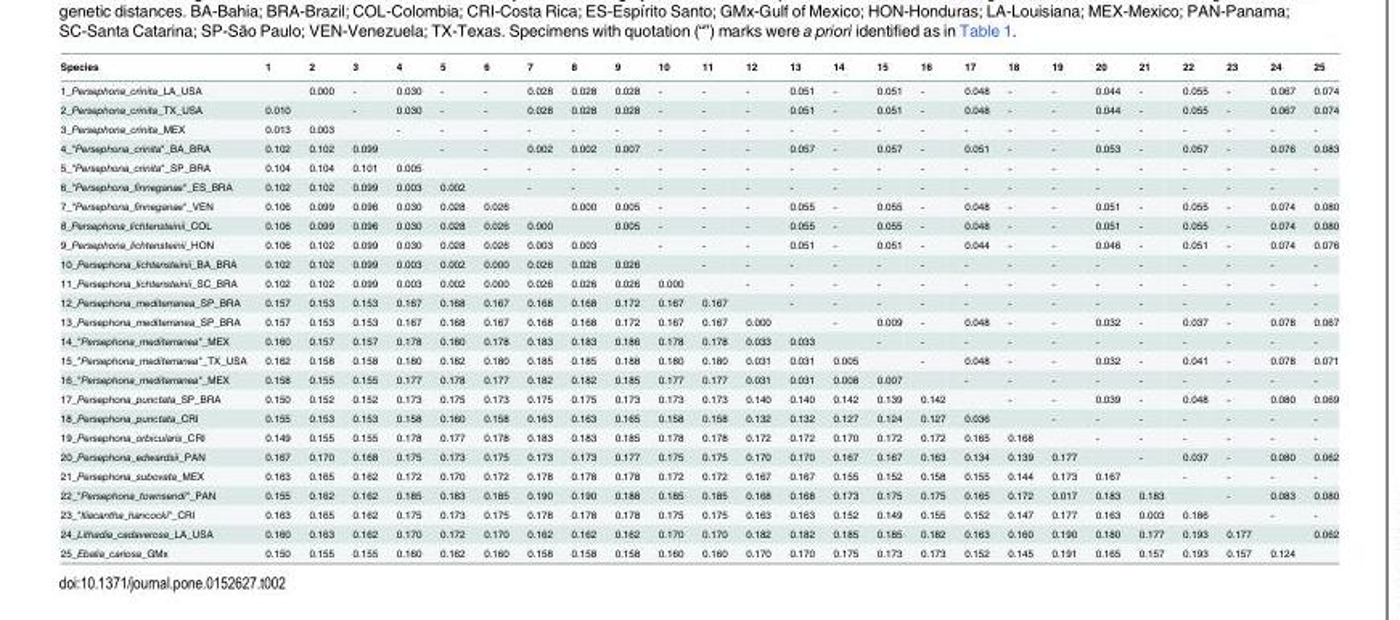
<table><thead><tr><td>Species</td><td>1</td><td>2</td><td>3</td><td>4</td><td>5</td><td>6</td><td>7</td><td>8</td><td>9</td><td>10</td><td>11</td><td>12</td><td>13</td><td>14</td><td>15</td><td>16</td><td>17</td><td>18</td><td>19</td><td>20</td><td>21</td><td>22</td><td>23</td><td>24</td><td>25</td></tr></thead><tbody><tr><td>1_Persephona_crinita_LA_USA</td><td></td><td>0.000</td><td>-</td><td>0.030</td><td>-</td><td>-</td><td>0.028</td><td>0.028</td><td>0.028</td><td>-</td><td>-</td><td>-</td><td>0.051</td><td>-</td><td>0.051</td><td>-</td><td>0.048</td><td>-</td><td>-</td><td>0.044</td><td>-</td><td>0.055</td><td>-</td><td>0.067</td><td>0.074</td></tr><tr><td>2_Persephona_crinita_TX_USA</td><td>0.010</td><td></td><td>-</td><td>0.030</td><td>-</td><td>-</td><td>0.028</td><td>0.028</td><td>0.028</td><td>-</td><td>-</td><td>-</td><td>0.051</td><td>-</td><td>0.051</td><td>-</td><td>0.048</td><td>-</td><td>-</td><td>0.044</td><td>-</td><td>0.055</td><td>-</td><td>0.067</td><td>0.074</td></tr><tr><td>3_Persephona_crinita_MEX</td><td>0.013</td><td>0.003</td><td></td><td>-</td><td>-</td><td>-</td><td>-</td><td>-</td><td>-</td><td>-</td><td>-</td><td>-</td><td>-</td><td>-</td><td>-</td><td>-</td><td>-</td><td>-</td><td>-</td><td>-</td><td>-</td><td>-</td><td>-</td><td>-</td><td>-</td></tr><tr><td>4_&quot;Persephona_crinita&quot;_BA_BRA</td><td>0.102</td><td>0.102</td><td>0.099</td><td></td><td>-</td><td>-</td><td>0.002</td><td>0.002</td><td>0.007</td><td>-</td><td>-</td><td>-</td><td>0.057</td><td>-</td><td>0.057</td><td>-</td><td>0.051</td><td>-</td><td>-</td><td>0.053</td><td>-</td><td>0.057</td><td>-</td><td>0.076</td><td>0.083</td></tr><tr><td>5_&quot;Persephona_crinita&quot;_SP_BRA</td><td>0.104</td><td>0.104</td><td>0.101</td><td>0.005</td><td></td><td>-</td><td>-</td><td>-</td><td>-</td><td>-</td><td>-</td><td>-</td><td>-</td><td>-</td><td>-</td><td>-</td><td>-</td><td>-</td><td>-</td><td>-</td><td>-</td><td>-</td><td>-</td><td>-</td><td>-</td></tr><tr><td>6_&quot;Persephona_finneganae&quot;_ES_BRA</td><td>0.102</td><td>0.102</td><td>0.099</td><td>0.003</td><td>0.002</td><td></td><td>-</td><td>-</td><td>-</td><td>-</td><td>-</td><td>-</td><td>-</td><td>-</td><td>-</td><td>-</td><td>-</td><td>-</td><td>-</td><td>-</td><td>-</td><td>-</td><td>-</td><td>-</td><td>-</td></tr><tr><td>7_&quot;Persephona_finneganae&quot;_VEN</td><td>0.106</td><td>0.099</td><td>0.096</td><td>0.030</td><td>0.028</td><td>0.026</td><td></td><td>0.000</td><td>0.005</td><td>-</td><td>-</td><td>-</td><td>0.055</td><td>-</td><td>0.055</td><td>-</td><td>0.048</td><td>-</td><td>-</td><td>0.051</td><td>-</td><td>0.055</td><td>-</td><td>0.074</td><td>0.080</td></tr><tr><td>8_Persephona_lichtensteinii_COL</td><td>0.106</td><td>0.099</td><td>0.096</td><td>0.030</td><td>0.028</td><td>0.026</td><td>0.000</td><td></td><td>0.005</td><td>-</td><td>-</td><td>-</td><td>0.055</td><td>-</td><td>0.055</td><td>-</td><td>0.048</td><td>-</td><td>-</td><td>0.051</td><td>-</td><td>0.055</td><td>-</td><td>0.074</td><td>0.080</td></tr><tr><td>9_Persephona_lichtensteinii_HON</td><td>0.106</td><td>0.102</td><td>0.099</td><td>0.030</td><td>0.028</td><td>0.026</td><td>0.003</td><td>0.003</td><td></td><td>-</td><td>-</td><td>-</td><td>0.051</td><td>-</td><td>0.051</td><td>-</td><td>0.044</td><td>-</td><td>-</td><td>0.046</td><td>-</td><td>0.051</td><td>-</td><td>0.074</td><td>0.076</td></tr><tr><td>10_Persephona_lichtensteinii_BA_BRA</td><td>0.102</td><td>0.102</td><td>0.099</td><td>0.003</td><td>0.002</td><td>0.000</td><td>0.026</td><td>0.026</td><td>0.026</td><td></td><td>-</td><td>-</td><td>-</td><td>-</td><td>-</td><td>-</td><td>-</td><td>-</td><td>-</td><td>-</td><td>-</td><td>-</td><td>-</td><td>-</td><td>-</td></tr><tr><td>11_Persephona_lichtensteinii_SC_BRA</td><td>0.102</td><td>0.102</td><td>0.099</td><td>0.003</td><td>0.002</td><td>0.000</td><td>0.026</td><td>0.026</td><td>0.026</td><td>0.000</td><td></td><td>-</td><td>-</td><td>-</td><td>-</td><td>-</td><td>-</td><td>-</td><td>-</td><td>-</td><td>-</td><td>-</td><td>-</td><td>-</td><td>-</td></tr><tr><td>12_Persephona_mediterranea_SP_BRA</td><td>0.157</td><td>0.153</td><td>0.153</td><td>0.167</td><td>0.168</td><td>0.167</td><td>0.168</td><td>0.168</td><td>0.172</td><td>0.167</td><td>0.167</td><td></td><td>-</td><td>-</td><td>-</td><td>-</td><td>-</td><td>-</td><td>-</td><td>-</td><td>-</td><td>-</td><td>-</td><td>-</td><td>-</td></tr><tr><td>13_Persephona_mediterranea_SP_BRA</td><td>0.157</td><td>0.153</td><td>0.153</td><td>0.167</td><td>0.168</td><td>0.167</td><td>0.168</td><td>0.168</td><td>0.172</td><td>0.167</td><td>0.167</td><td>0.000</td><td></td><td>-</td><td>0.009</td><td>-</td><td>0.048</td><td>-</td><td>-</td><td>0.032</td><td>-</td><td>0.037</td><td>-</td><td>0.078</td><td>0.067</td></tr><tr><td>14_&quot;Persephona_mediterranea&quot;_MEX</td><td>0.160</td><td>0.157</td><td>0.157</td><td>0.178</td><td>0.180</td><td>0.178</td><td>0.183</td><td>0.183</td><td>0.186</td><td>0.178</td><td>0.178</td><td>0.033</td><td>0.033</td><td></td><td>-</td><td>-</td><td>-</td><td>-</td><td>-</td><td>-</td><td>-</td><td>-</td><td>-</td><td>-</td><td>-</td></tr><tr><td>15_&quot;Persephona_mediterranea&quot;_TX_USA</td><td>0.162</td><td>0.158</td><td>0.158</td><td>0.180</td><td>0.182</td><td>0.180</td><td>0.185</td><td>0.185</td><td>0.188</td><td>0.180</td><td>0.180</td><td>0.031</td><td>0.031</td><td>0.005</td><td></td><td>-</td><td>0.048</td><td>-</td><td>-</td><td>0.032</td><td>-</td><td>0.041</td><td>-</td><td>0.078</td><td>0.071</td></tr><tr><td>16_&quot;Persephona_mediterranea&quot;_MEX</td><td>0.158</td><td>0.155</td><td>0.155</td><td>0.177</td><td>0.178</td><td>0.177</td><td>0.182</td><td>0.182</td><td>0.185</td><td>0.177</td><td>0.177</td><td>0.031</td><td>0.031</td><td>0.008</td><td>0.007</td><td></td><td>-</td><td>-</td><td>-</td><td>-</td><td>-</td><td>-</td><td>-</td><td>-</td><td>-</td></tr><tr><td>17_Persephona_punctata_SP_BRA</td><td>0.150</td><td>0.152</td><td>0.152</td><td>0.173</td><td>0.175</td><td>0.173</td><td>0.175</td><td>0.175</td><td>0.173</td><td>0.173</td><td>0.173</td><td>0.140</td><td>0.140</td><td>0.142</td><td>0.139</td><td>0.142</td><td></td><td>-</td><td>-</td><td>0.039</td><td>-</td><td>0.048</td><td>-</td><td>0.080</td><td>0.069</td></tr><tr><td>18_Persephona_punctata_CRI</td><td>0.155</td><td>0.153</td><td>0.153</td><td>0.158</td><td>0.160</td><td>0.158</td><td>0.163</td><td>0.163</td><td>0.165</td><td>0.158</td><td>0.158</td><td>0.132</td><td>0.132</td><td>0.127</td><td>0.124</td><td>0.127</td><td>0.036</td><td></td><td>-</td><td>-</td><td>-</td><td>-</td><td>-</td><td>-</td><td>-</td></tr><tr><td>19_Persephona_orbicularis_CRI</td><td>0.149</td><td>0.155</td><td>0.155</td><td>0.178</td><td>0.177</td><td>0.178</td><td>0.183</td><td>0.183</td><td>0.185</td><td>0.178</td><td>0.178</td><td>0.172</td><td>0.172</td><td>0.170</td><td>0.172</td><td>0.172</td><td>0.165</td><td>0.168</td><td></td><td>-</td><td>-</td><td>-</td><td>-</td><td>-</td><td>-</td></tr><tr><td>20_Persephona_edwardsii_PAN</td><td>0.167</td><td>0.170</td><td>0.168</td><td>0.175</td><td>0.173</td><td>0.175</td><td>0.173</td><td>0.173</td><td>0.177</td><td>0.175</td><td>0.175</td><td>0.170</td><td>0.170</td><td>0.167</td><td>0.167</td><td>0.163</td><td>0.134</td><td>0.139</td><td>0.177</td><td></td><td>-</td><td>0.037</td><td>-</td><td>0.080</td><td>0.062</td></tr><tr><td>21_Persephona_subovata_MEX</td><td>0.163</td><td>0.165</td><td>0.162</td><td>0.172</td><td>0.170</td><td>0.172</td><td>0.178</td><td>0.178</td><td>0.178</td><td>0.172</td><td>0.172</td><td>0.167</td><td>0.167</td><td>0.155</td><td>0.152</td><td>0.158</td><td>0.155</td><td>0.144</td><td>0.173</td><td>0.167</td><td></td><td>-</td><td>-</td><td>-</td><td>-</td></tr><tr><td>22_&quot;Persephona_townsendi&quot;_PAN</td><td>0.155</td><td>0.162</td><td>0.162</td><td>0.185</td><td>0.183</td><td>0.185</td><td>0.190</td><td>0.190</td><td>0.188</td><td>0.185</td><td>0.185</td><td>0.168</td><td>0.168</td><td>0.173</td><td>0.175</td><td>0.175</td><td>0.165</td><td>0.172</td><td>0.017</td><td>0.183</td><td>0.183</td><td></td><td>-</td><td>0.083</td><td>0.080</td></tr><tr><td>23_&quot;Iliacantha_hancocki&quot;_CRI</td><td>0.163</td><td>0.165</td><td>0.162</td><td>0.175</td><td>0.173</td><td>0.175</td><td>0.178</td><td>0.178</td><td>0.178</td><td>0.175</td><td>0.175</td><td>0.163</td><td>0.163</td><td>0.152</td><td>0.149</td><td>0.155</td><td>0.152</td><td>0.147</td><td>0.177</td><td>0.163</td><td>0.003</td><td>0.186</td><td></td><td>-</td><td>-</td></tr><tr><td>24_Lithadia_cadaverosa_LA_USA</td><td>0.160</td><td>0.163</td><td>0.162</td><td>0.170</td><td>0.172</td><td>0.170</td><td>0.162</td><td>0.162</td><td>0.162</td><td>0.170</td><td>0.170</td><td>0.182</td><td>0.182</td><td>0.185</td><td>0.185</td><td>0.182</td><td>0.163</td><td>0.160</td><td>0.190</td><td>0.180</td><td>0.177</td><td>0.193</td><td>0.177</td><td></td><td>0.062</td></tr><tr><td>25_Ebalia_cariosa_GMx</td><td>0.150</td><td>0.155</td><td>0.155</td><td>0.160</td><td>0.162</td><td>0.160</td><td>0.158</td><td>0.158</td><td>0.158</td><td>0.160</td><td>0.160</td><td>0.170</td><td>0.170</td><td>0.175</td><td>0.173</td><td>0.173</td><td>0.152</td><td>0.145</td><td>0.191</td><td>0.165</td><td>0.157</td><td>0.193</td><td>0.157</td><td>0.124</td><td></td></tr></tbody></table>